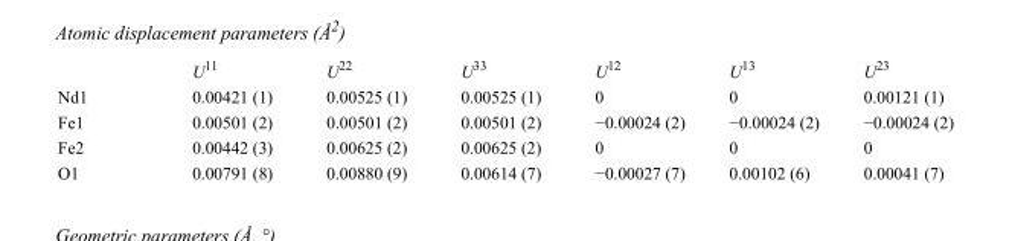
<table><thead><tr><td></td><td>U<sup>11</sup></td><td>U<sup>22</sup></td><td>U<sup>33</sup></td><td>U<sup>12</sup></td><td>U<sup>13</sup></td><td>U<sup>23</sup></td></tr></thead><tbody><tr><td>Nd1</td><td>0.00421 (1)</td><td>0.00525 (1)</td><td>0.00525 (1)</td><td>0</td><td>0</td><td>0.00121 (1)</td></tr><tr><td>Fe1</td><td>0.00501 (2)</td><td>0.00501 (2)</td><td>0.00501 (2)</td><td>−0.00024 (2)</td><td>−0.00024 (2)</td><td>−0.00024 (2)</td></tr><tr><td>Fe2</td><td>0.00442 (3)</td><td>0.00625 (2)</td><td>0.00625 (2)</td><td>0</td><td>0</td><td>0</td></tr><tr><td>O1</td><td>0.00791 (8)</td><td>0.00880 (9)</td><td>0.00614 (7)</td><td>−0.00027 (7)</td><td>0.00102 (6)</td><td>0.00041 (7)</td></tr></tbody></table>